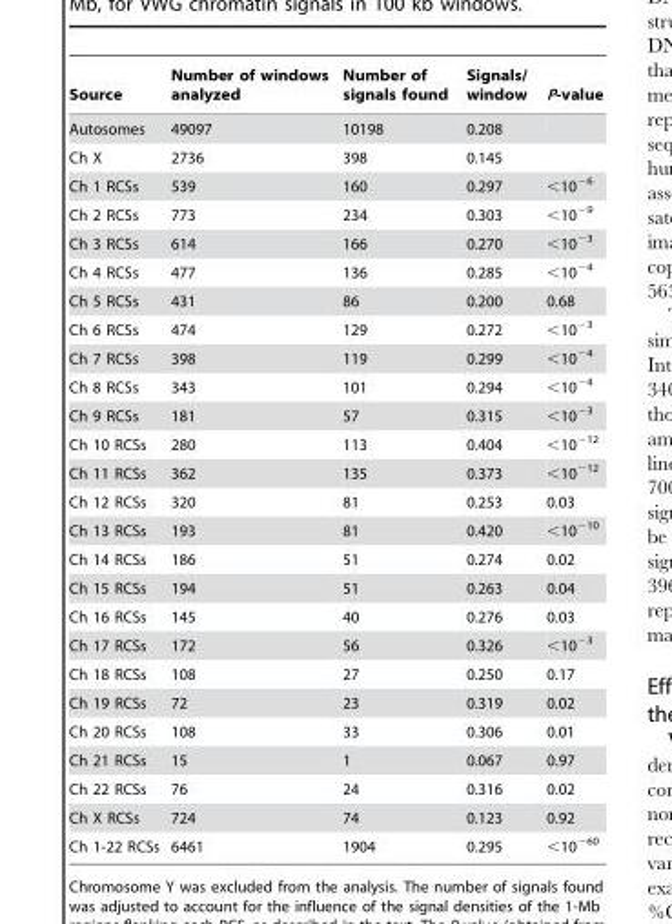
<table><thead><tr><td>Source</td><td>Number of windows analyzed</td><td>Number of signals found</td><td>Signals/ window</td><td>P-value</td></tr></thead><tbody><tr><td>Autosomes</td><td>49097</td><td>10198</td><td>0.208</td><td></td></tr><tr><td>Ch X</td><td>2736</td><td>398</td><td>0.145</td><td></td></tr><tr><td>Ch 1 RCSs</td><td>539</td><td>160</td><td>0.297</td><td>&lt;10<sup>−6</sup></td></tr><tr><td>Ch 2 RCSs</td><td>773</td><td>234</td><td>0.303</td><td>&lt;10<sup>−9</sup></td></tr><tr><td>Ch 3 RCSs</td><td>614</td><td>166</td><td>0.270</td><td>&lt;10<sup>−3</sup></td></tr><tr><td>Ch 4 RCSs</td><td>477</td><td>136</td><td>0.285</td><td>&lt;10<sup>−4</sup></td></tr><tr><td>Ch 5 RCSs</td><td>431</td><td>86</td><td>0.200</td><td>0.68</td></tr><tr><td>Ch 6 RCSs</td><td>474</td><td>129</td><td>0.272</td><td>&lt;10<sup>−3</sup></td></tr><tr><td>Ch 7 RCSs</td><td>398</td><td>119</td><td>0.299</td><td>&lt;10<sup>−4</sup></td></tr><tr><td>Ch 8 RCSs</td><td>343</td><td>101</td><td>0.294</td><td>&lt;10<sup>−4</sup></td></tr><tr><td>Ch 9 RCSs</td><td>181</td><td>57</td><td>0.315</td><td>&lt;10<sup>−3</sup></td></tr><tr><td>Ch 10 RCSs</td><td>280</td><td>113</td><td>0.404</td><td>&lt;10<sup>−12</sup></td></tr><tr><td>Ch 11 RCSs</td><td>362</td><td>135</td><td>0.373</td><td>&lt;10<sup>−12</sup></td></tr><tr><td>Ch 12 RCSs</td><td>320</td><td>81</td><td>0.253</td><td>0.03</td></tr><tr><td>Ch 13 RCSs</td><td>193</td><td>81</td><td>0.420</td><td>&lt;10<sup>−10</sup></td></tr><tr><td>Ch 14 RCSs</td><td>186</td><td>51</td><td>0.274</td><td>0.02</td></tr><tr><td>Ch 15 RCSs</td><td>194</td><td>51</td><td>0.263</td><td>0.04</td></tr><tr><td>Ch 16 RCSs</td><td>145</td><td>40</td><td>0.276</td><td>0.03</td></tr><tr><td>Ch 17 RCSs</td><td>172</td><td>56</td><td>0.326</td><td>&lt;10<sup>−3</sup></td></tr><tr><td>Ch 18 RCSs</td><td>108</td><td>27</td><td>0.250</td><td>0.17</td></tr><tr><td>Ch 19 RCSs</td><td>72</td><td>23</td><td>0.319</td><td>0.02</td></tr><tr><td>Ch 20 RCSs</td><td>108</td><td>33</td><td>0.306</td><td>0.01</td></tr><tr><td>Ch 21 RCSs</td><td>15</td><td>1</td><td>0.067</td><td>0.97</td></tr><tr><td>Ch 22 RCSs</td><td>76</td><td>24</td><td>0.316</td><td>0.02</td></tr><tr><td>Ch X RCSs</td><td>724</td><td>74</td><td>0.123</td><td>0.92</td></tr><tr><td>Ch 1-22 RCSs</td><td>6461</td><td>1904</td><td>0.295</td><td>&lt;10<sup>−60</sup></td></tr></tbody></table>